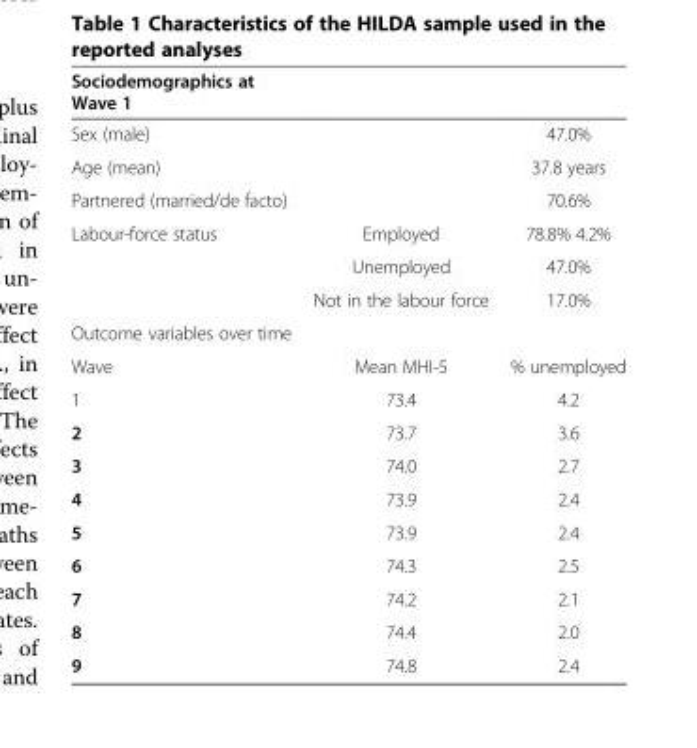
<table><thead><tr><td>Sociodemographics at Wave 1</td><td></td><td></td></tr></thead><tbody><tr><td>Sex (male)</td><td></td><td>47.0%</td></tr><tr><td>Age (mean)</td><td></td><td>37.8 years</td></tr><tr><td>Partnered (married/de facto)</td><td></td><td>70.6%</td></tr><tr><td rowspan="3">Labour-force status</td><td>Employed</td><td>78.8% 4.2%</td></tr><tr><td>Unemployed</td><td>47.0%</td></tr><tr><td>Not in the labour force</td><td>17.0%</td></tr><tr><td colspan="3">Outcome variables over time</td></tr><tr><td>Wave</td><td>Mean MHI-5</td><td>% unemployed</td></tr><tr><td>1</td><td>73.4</td><td>4.2</td></tr><tr><td>2</td><td>73.7</td><td>3.6</td></tr><tr><td>3</td><td>74.0</td><td>2.7</td></tr><tr><td>4</td><td>73.9</td><td>2.4</td></tr><tr><td>5</td><td>73.9</td><td>2.4</td></tr><tr><td>6</td><td>74.3</td><td>2.5</td></tr><tr><td>7</td><td>74.2</td><td>2.1</td></tr><tr><td>8</td><td>74.4</td><td>2.0</td></tr><tr><td>9</td><td>74.8</td><td>2.4</td></tr></tbody></table>